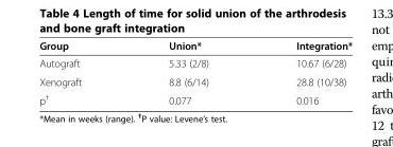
<table><thead><tr><td>Group</td><td>Union*</td><td>Integration*</td></tr></thead><tbody><tr><td>Autograft</td><td>5.33 (2/8)</td><td>10.67 (6/28)</td></tr><tr><td>Xenograft</td><td>8.8 (6/14)</td><td>28.8 (10/38)</td></tr><tr><td>p<sup>†</sup></td><td>0.077</td><td>0.016</td></tr></tbody></table>